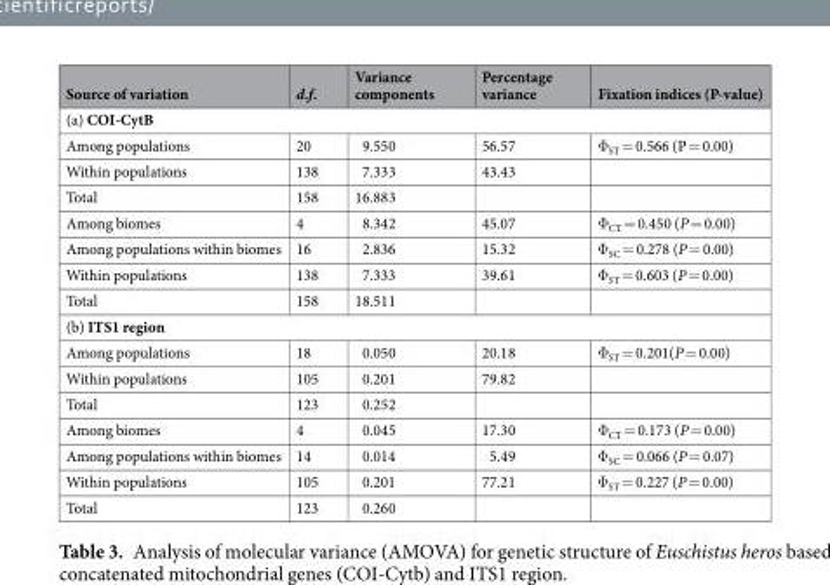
<table><thead><tr><td>Source of variation</td><td>d.f.</td><td>Variance components</td><td>Percentage variance</td><td>Fixation indices (P-value)</td></tr></thead><tbody><tr><td colspan="5">(a) COI-CytB</td></tr><tr><td>Among populations</td><td>20</td><td>9.550</td><td>56.57</td><td>Φ<sub>ST</sub> = 0.566 (P = 0.00)</td></tr><tr><td>Within populations</td><td>138</td><td>7.333</td><td>43.43</td><td></td></tr><tr><td>Total</td><td>158</td><td>16.883</td><td></td><td></td></tr><tr><td>Among biomes</td><td>4</td><td>8.342</td><td>45.07</td><td>Φ<sub>CT</sub> = 0.450 (P = 0.00)</td></tr><tr><td>Among populations within biomes</td><td>16</td><td>2.836</td><td>15.32</td><td>Φ<sub>SC</sub> = 0.278 (P = 0.00)</td></tr><tr><td>Within populations</td><td>138</td><td>7.333</td><td>39.61</td><td>Φ<sub>ST</sub> = 0.603 (P = 0.00)</td></tr><tr><td>Total</td><td>158</td><td>18.511</td><td></td><td></td></tr><tr><td colspan="5">(b) ITS1 region</td></tr><tr><td>Among populations</td><td>18</td><td>0.050</td><td>20.18</td><td>Φ<sub>ST</sub> = 0.201(P = 0.00)</td></tr><tr><td>Within populations</td><td>105</td><td>0.201</td><td>79.82</td><td></td></tr><tr><td>Total</td><td>123</td><td>0.252</td><td></td><td></td></tr><tr><td>Among biomes</td><td>4</td><td>0.045</td><td>17.30</td><td>Φ<sub>CT</sub> = 0.173 (P = 0.00)</td></tr><tr><td>Among populations within biomes</td><td>14</td><td>0.014</td><td>5.49</td><td>Φ<sub>SC</sub> = 0.066 (P = 0.07)</td></tr><tr><td>Within populations</td><td>105</td><td>0.201</td><td>77.21</td><td>Φ<sub>ST</sub> = 0.227 (P = 0.00)</td></tr><tr><td>Total</td><td>123</td><td>0.260</td><td></td><td></td></tr></tbody></table>